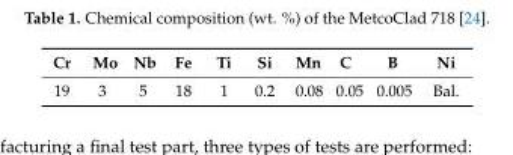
<table><thead><tr><td>Cr</td><td>Mo</td><td>Nb</td><td>Fe</td><td>Ti</td><td>Si</td><td>Mn</td><td>C</td><td>B</td><td>Ni</td></tr></thead><tbody><tr><td>19</td><td>3</td><td>5</td><td>18</td><td>1</td><td>0.2</td><td>0.08</td><td>0.05</td><td>0.005</td><td>Bal.</td></tr></tbody></table>